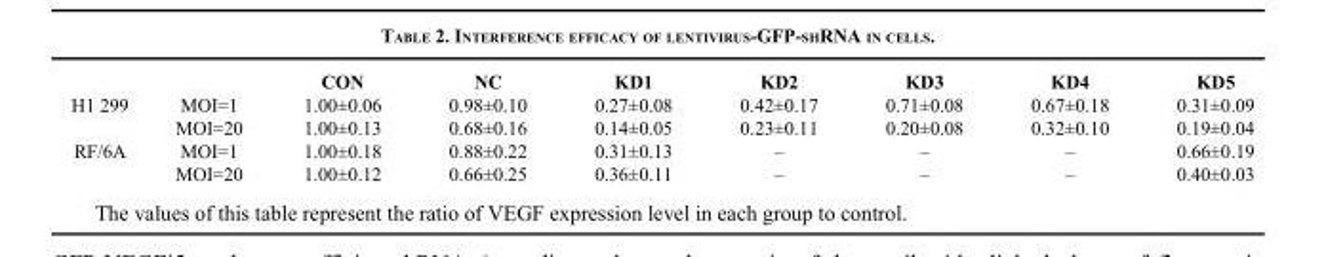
<table><thead><tr><td></td><td></td><td>CON</td><td>NC</td><td>KD1</td><td>KD2</td><td>KD3</td><td>KD4</td><td>KD5</td></tr></thead><tbody><tr><td rowspan="2">H1 299</td><td>MOI=1</td><td>1.00±0.06</td><td>0.98±0.10</td><td>0.27±0.08</td><td>0.42±0.17</td><td>0.71±0.08</td><td>0.67±0.18</td><td>0.31±0.09</td></tr><tr><td>MOI=20</td><td>1.00±0.13</td><td>0.68±0.16</td><td>0.14±0.05</td><td>0.23±0.11</td><td>0.20±0.08</td><td>0.32±0.10</td><td>0.19±0.04</td></tr><tr><td rowspan="2">RF/6A</td><td>MOI=1</td><td>1.00±0.18</td><td>0.88±0.22</td><td>0.31±0.13</td><td>–</td><td>–</td><td>–</td><td>0.66±0.19</td></tr><tr><td>MOI=20</td><td>1.00±0.12</td><td>0.66±0.25</td><td>0.36±0.11</td><td>–</td><td>–</td><td>–</td><td>0.40±0.03</td></tr></tbody></table>